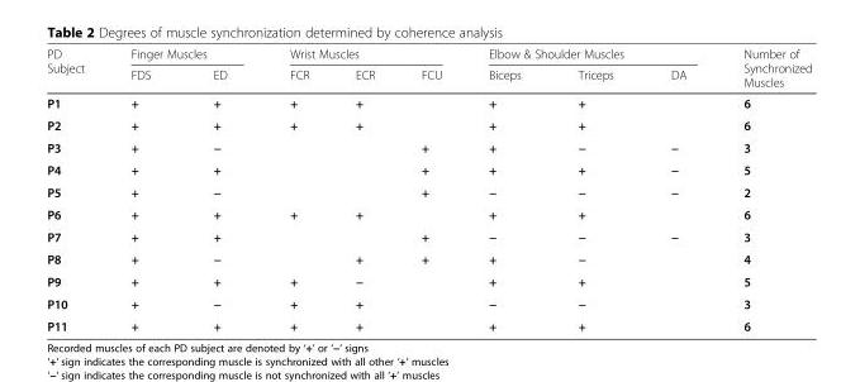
<table><thead><tr><td rowspan="2">PD Subject</td><td colspan="2">Finger Muscles</td><td colspan="3">Wrist Muscles</td><td colspan="3">Elbow &amp; Shoulder Muscles</td><td rowspan="2">Number of Synchronized Muscles</td></tr><tr><td>FDS</td><td>ED</td><td>FCR</td><td>ECR</td><td>FCU</td><td>Biceps</td><td>Triceps</td><td>DA</td></tr></thead><tbody><tr><td>P1</td><td>+</td><td>+</td><td>+</td><td>+</td><td></td><td>+</td><td>+</td><td></td><td>6</td></tr><tr><td>P2</td><td>+</td><td>+</td><td>+</td><td>+</td><td></td><td>+</td><td>+</td><td></td><td>6</td></tr><tr><td>P3</td><td>+</td><td>−</td><td></td><td></td><td>+</td><td>+</td><td>−</td><td>−</td><td>3</td></tr><tr><td>P4</td><td>+</td><td>+</td><td></td><td></td><td>+</td><td>+</td><td>+</td><td>−</td><td>5</td></tr><tr><td>P5</td><td>+</td><td>−</td><td></td><td></td><td>+</td><td>−</td><td>−</td><td>−</td><td>2</td></tr><tr><td>P6</td><td>+</td><td>+</td><td>+</td><td>+</td><td></td><td>+</td><td>+</td><td></td><td>6</td></tr><tr><td>P7</td><td>+</td><td>+</td><td></td><td></td><td>+</td><td>−</td><td>−</td><td>−</td><td>3</td></tr><tr><td>P8</td><td>+</td><td>−</td><td></td><td>+</td><td>+</td><td>+</td><td>−</td><td></td><td>4</td></tr><tr><td>P9</td><td>+</td><td>+</td><td>+</td><td>−</td><td></td><td>+</td><td>+</td><td></td><td>5</td></tr><tr><td>P10</td><td>+</td><td>−</td><td>+</td><td>+</td><td></td><td>−</td><td>−</td><td></td><td>3</td></tr><tr><td>P11</td><td>+</td><td>+</td><td>+</td><td>+</td><td></td><td>+</td><td>+</td><td></td><td>6</td></tr></tbody></table>